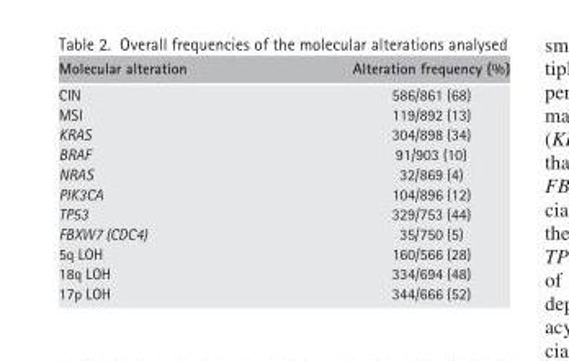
<table><thead><tr><td>Molecular alteration</td><td>Alteration frequency (%)</td></tr></thead><tbody><tr><td>CIN</td><td>586/861 (68)</td></tr><tr><td>MSI</td><td>119/892 (13)</td></tr><tr><td>KRAS</td><td>304/898 (34)</td></tr><tr><td>BRAF</td><td>91/903 (10)</td></tr><tr><td>NRAS</td><td>32/869 (4)</td></tr><tr><td>PIK3CA</td><td>104/896 (12)</td></tr><tr><td>TP53</td><td>329/753 (44)</td></tr><tr><td>FBXW7 (CDC4)</td><td>35/750 (5)</td></tr><tr><td>5q LOH</td><td>160/566 (28)</td></tr><tr><td>18q LOH</td><td>334/694 (48)</td></tr><tr><td>17p LOH</td><td>344/666 (52)</td></tr></tbody></table>